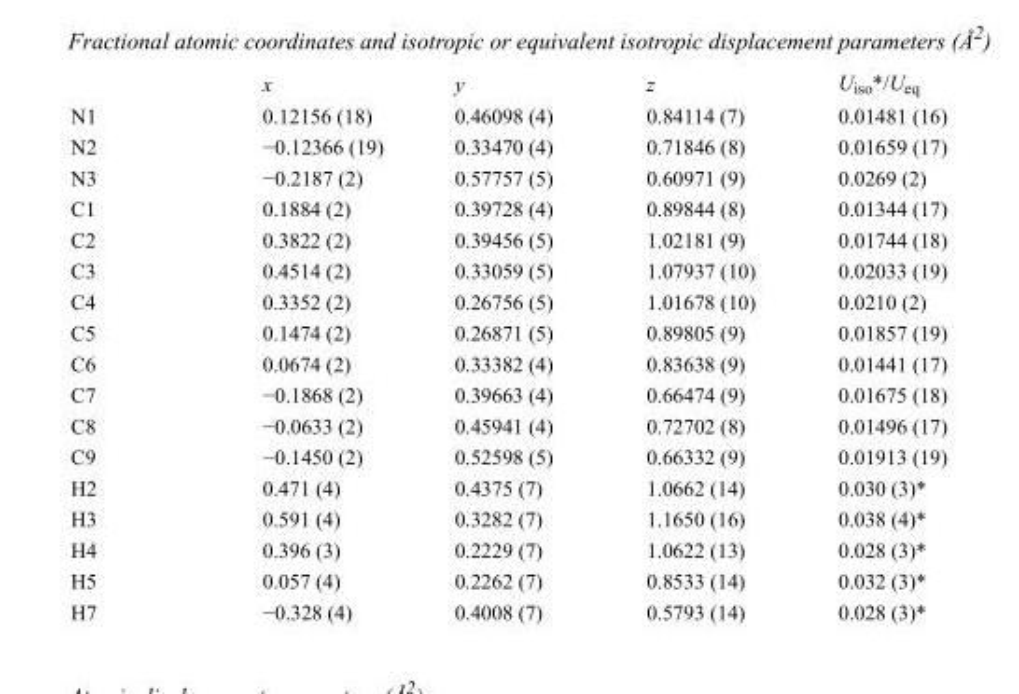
<table><thead><tr><td></td><td>x</td><td>y</td><td>z</td><td>U<sub>iso</sub>*/U<sub>eq</sub></td></tr></thead><tbody><tr><td>N1</td><td>0.12156 (18)</td><td>0.46098 (4)</td><td>0.84114 (7)</td><td>0.01481 (16)</td></tr><tr><td>N2</td><td>−0.12366 (19)</td><td>0.33470 (4)</td><td>0.71846 (8)</td><td>0.01659 (17)</td></tr><tr><td>N3</td><td>−0.2187 (2)</td><td>0.57757 (5)</td><td>0.60971 (9)</td><td>0.0269 (2)</td></tr><tr><td>C1</td><td>0.1884 (2)</td><td>0.39728 (4)</td><td>0.89844 (8)</td><td>0.01344 (17)</td></tr><tr><td>C2</td><td>0.3822 (2)</td><td>0.39456 (5)</td><td>1.02181 (9)</td><td>0.01744 (18)</td></tr><tr><td>C3</td><td>0.4514 (2)</td><td>0.33059 (5)</td><td>1.07937 (10)</td><td>0.02033 (19)</td></tr><tr><td>C4</td><td>0.3352 (2)</td><td>0.26756 (5)</td><td>1.01678 (10)</td><td>0.0210 (2)</td></tr><tr><td>C5</td><td>0.1474 (2)</td><td>0.26871 (5)</td><td>0.89805 (9)</td><td>0.01857 (19)</td></tr><tr><td>C6</td><td>0.0674 (2)</td><td>0.33382 (4)</td><td>0.83638 (9)</td><td>0.01441 (17)</td></tr><tr><td>C7</td><td>−0.1868 (2)</td><td>0.39663 (4)</td><td>0.66474 (9)</td><td>0.01675 (18)</td></tr><tr><td>C8</td><td>−0.0633 (2)</td><td>0.45941 (4)</td><td>0.72702 (8)</td><td>0.01496 (17)</td></tr><tr><td>C9</td><td>−0.1450 (2)</td><td>0.52598 (5)</td><td>0.66332 (9)</td><td>0.01913 (19)</td></tr><tr><td>H2</td><td>0.471 (4)</td><td>0.4375 (7)</td><td>1.0662 (14)</td><td>0.030 (3)*</td></tr><tr><td>H3</td><td>0.591 (4)</td><td>0.3282 (7)</td><td>1.1650 (16)</td><td>0.038 (4)*</td></tr><tr><td>H4</td><td>0.396 (3)</td><td>0.2229 (7)</td><td>1.0622 (13)</td><td>0.028 (3)*</td></tr><tr><td>H5</td><td>0.057 (4)</td><td>0.2262 (7)</td><td>0.8533 (14)</td><td>0.032 (3)*</td></tr><tr><td>H7</td><td>−0.328 (4)</td><td>0.4008 (7)</td><td>0.5793 (14)</td><td>0.028 (3)*</td></tr></tbody></table>